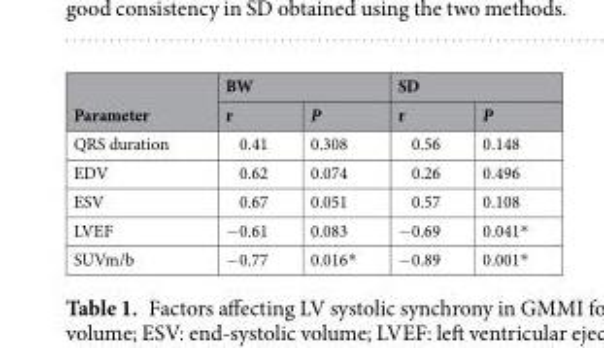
<table><thead><tr><td rowspan="2">Parameter</td><td colspan="2">BW</td><td colspan="2">SD</td></tr><tr><td>r</td><td>P</td><td>r</td><td>P</td></tr></thead><tbody><tr><td>QRS duration</td><td>0.41</td><td>0.308</td><td>0.56</td><td>0.148</td></tr><tr><td>EDV</td><td>0.62</td><td>0.074</td><td>0.26</td><td>0.496</td></tr><tr><td>ESV</td><td>0.67</td><td>0.051</td><td>0.57</td><td>0.108</td></tr><tr><td>LVEF</td><td>−0.61</td><td>0.083</td><td>−0.69</td><td>0.041*</td></tr><tr><td>SUVm/b</td><td>−0.77</td><td>0.016*</td><td>−0.89</td><td>0.001*</td></tr></tbody></table>